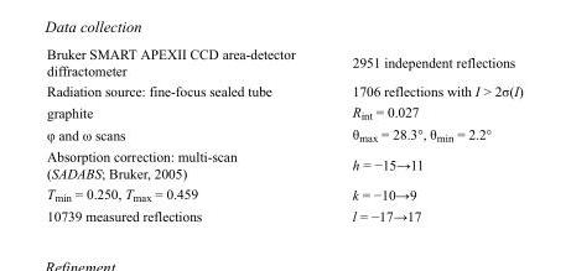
<table><tbody><tr><td>Bruker SMART APEXII CCD area-detector diffractometer</td><td>2951 independent reflections</td></tr><tr><td>Radiation source: fine-focus sealed tube</td><td>1706 reflections with I &gt; 2σ(I)</td></tr><tr><td>graphite</td><td>R<sub>int</sub> = 0.027</td></tr><tr><td>φ and ω scans</td><td>θ<sub>max</sub> = 28.3°, θ<sub>min</sub> = 2.2°</td></tr><tr><td>Absorption correction: multi-scan (SADABS; Bruker, 2005)</td><td>h = −15→11</td></tr><tr><td>T<sub>min</sub> = 0.250, T<sub>max</sub> = 0.459</td><td>k = −10→9</td></tr><tr><td>10739 measured reflections</td><td>l = −17→17</td></tr></tbody></table>